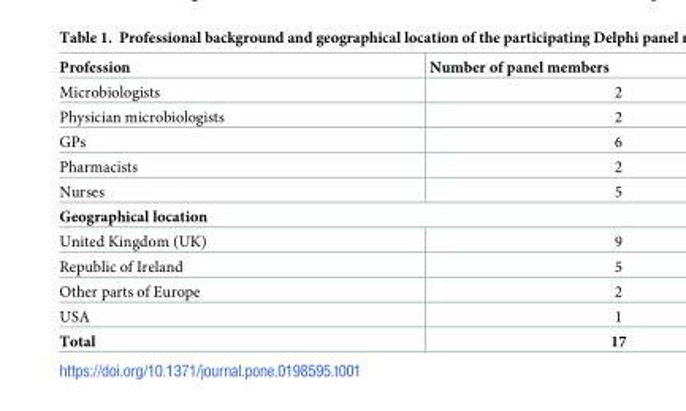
<table><thead><tr><td>Profession</td><td>Number of panel members</td></tr></thead><tbody><tr><td>Microbiologists</td><td>2</td></tr><tr><td>Physician microbiologists</td><td>2</td></tr><tr><td>GPs</td><td>6</td></tr><tr><td>Pharmacists</td><td>2</td></tr><tr><td>Nurses</td><td>5</td></tr><tr><td colspan="2">Geographical location</td></tr><tr><td>United Kingdom (UK)</td><td>9</td></tr><tr><td>Republic of Ireland</td><td>5</td></tr><tr><td>Other parts of Europe</td><td>2</td></tr><tr><td>USA</td><td>1</td></tr><tr><td>Total</td><td>17</td></tr></tbody></table>